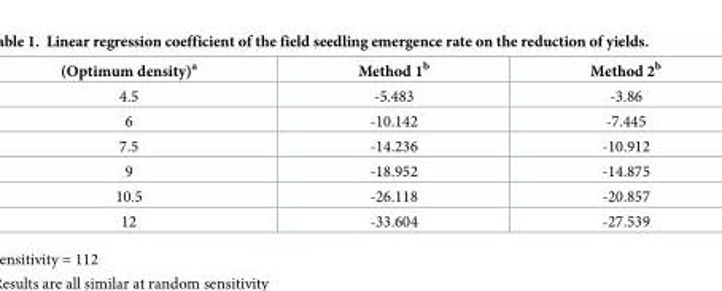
<table><thead><tr><td>(Optimum density)<sup>a</sup></td><td>Method 1<sup>b</sup></td><td>Method 2<sup>b</sup></td></tr></thead><tbody><tr><td>4.5</td><td>-5.483</td><td>-3.86</td></tr><tr><td>6</td><td>-10.142</td><td>-7.445</td></tr><tr><td>7.5</td><td>-14.236</td><td>-10.912</td></tr><tr><td>9</td><td>-18.952</td><td>-14.875</td></tr><tr><td>10.5</td><td>-26.118</td><td>-20.857</td></tr><tr><td>12</td><td>-33.604</td><td>-27.539</td></tr></tbody></table>